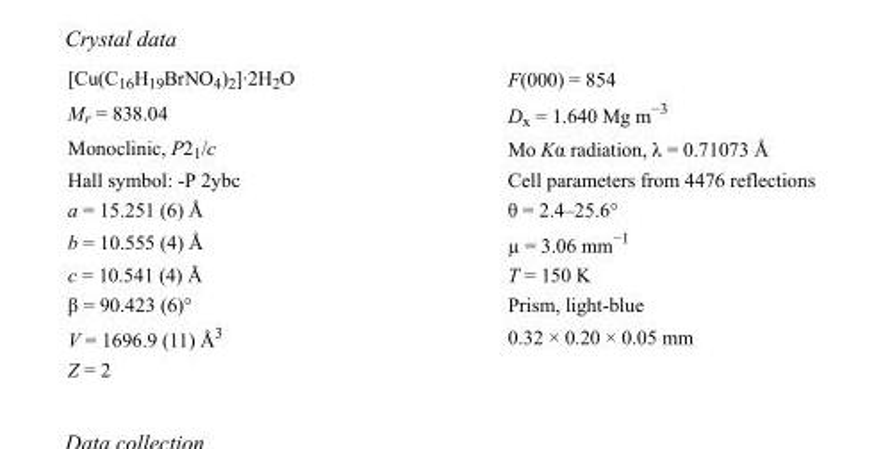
<table><tbody><tr><td>[Cu(C<sub>16</sub>H<sub>19</sub>BrNO<sub>4</sub>)<sub>2</sub>]·2H<sub>2</sub>O</td><td>F(000) = 854</td></tr><tr><td>M<sub>r</sub> = 838.04</td><td>D<sub>x</sub> = 1.640 Mg m<sup>−3</sup></td></tr><tr><td>Monoclinic, P2<sub>1</sub>/c</td><td>Mo Kα radiation, λ = 0.71073 Å</td></tr><tr><td>Hall symbol: -P 2ybc</td><td>Cell parameters from 4476 reflections</td></tr><tr><td>a = 15.251 (6) Å</td><td>θ = 2.4–25.6°</td></tr><tr><td>b = 10.555 (4) Å</td><td>µ = 3.06 mm<sup>−1</sup></td></tr><tr><td>c = 10.541 (4) Å</td><td>T = 150 K</td></tr><tr><td>β = 90.423 (6)°</td><td>Prism, light-blue</td></tr><tr><td>V = 1696.9 (11) Å<sup>3</sup></td><td>0.32 × 0.20 × 0.05 mm</td></tr><tr><td>Z = 2</td><td></td></tr></tbody></table>